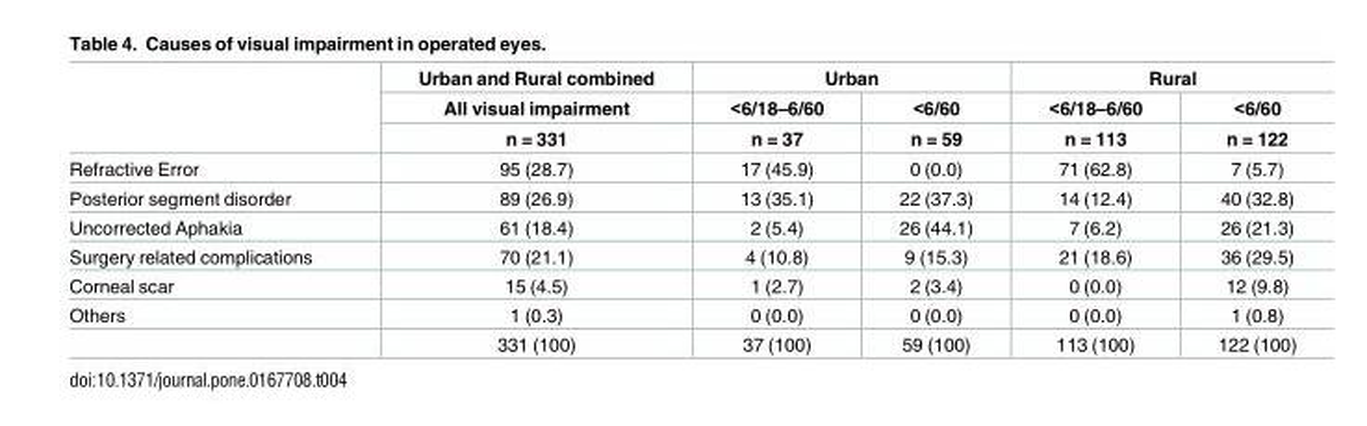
<table><thead><tr><td rowspan="3"></td><td rowspan="3">Urban and Rural combined All visual impairment n = 331</td><td colspan="2">Urban</td><td colspan="2">Rural</td></tr><tr><td rowspan="2">&lt;6/18–6/60 n = 37</td><td rowspan="2">&lt;6/60 n = 59</td><td rowspan="2">&lt;6/18–6/60 n = 113</td><td rowspan="2">&lt;6/60 n = 122</td></tr><tr></tr></thead><tbody><tr><td>Refractive Error</td><td>95 (28.7)</td><td>17 (45.9)</td><td>0 (0.0)</td><td>71 (62.8)</td><td>7 (5.7)</td></tr><tr><td>Posterior segment disorder</td><td>89 (26.9)</td><td>13 (35.1)</td><td>22 (37.3)</td><td>14 (12.4)</td><td>40 (32.8)</td></tr><tr><td>Uncorrected Aphakia</td><td>61 (18.4)</td><td>2 (5.4)</td><td>26 (44.1)</td><td>7 (6.2)</td><td>26 (21.3)</td></tr><tr><td>Surgery related complications</td><td>70 (21.1)</td><td>4 (10.8)</td><td>9 (15.3)</td><td>21 (18.6)</td><td>36 (29.5)</td></tr><tr><td>Corneal scar</td><td>15 (4.5)</td><td>1 (2.7)</td><td>2 (3.4)</td><td>0 (0.0)</td><td>12 (9.8)</td></tr><tr><td rowspan="2">Others</td><td>1 (0.3)</td><td>0 (0.0)</td><td>0 (0.0)</td><td>0 (0.0)</td><td>1 (0.8)</td></tr><tr><td>331 (100)</td><td>37 (100)</td><td>59 (100)</td><td>113 (100)</td><td>122 (100)</td></tr></tbody></table>